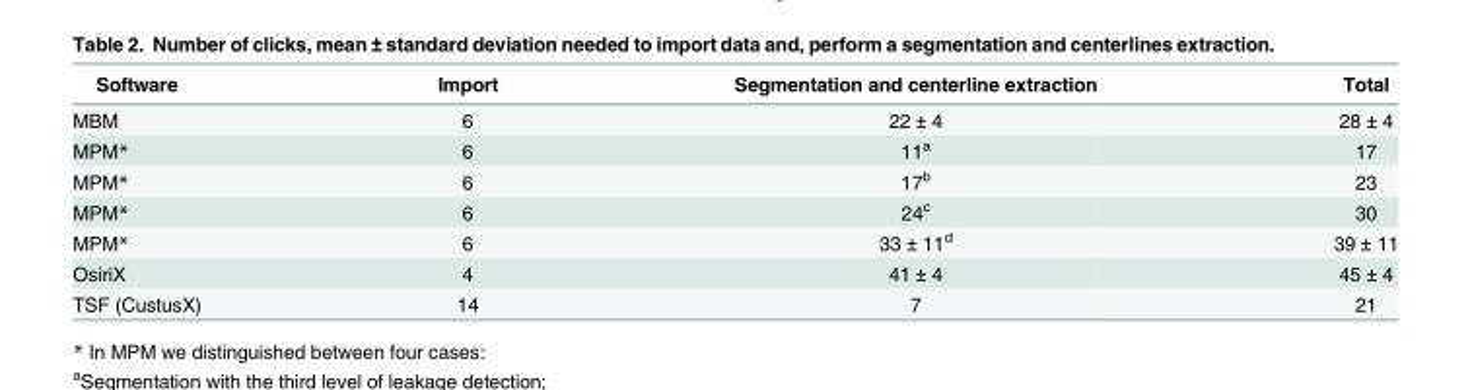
<table><thead><tr><td>Software</td><td>Import</td><td>Segmentation and centerline extraction</td><td>Total</td></tr></thead><tbody><tr><td>MBM</td><td>6</td><td>22 ± 4</td><td>28 ± 4</td></tr><tr><td>MPM*</td><td>6</td><td>11<sup>a</sup></td><td>17</td></tr><tr><td>MPM*</td><td>6</td><td>17<sup>b</sup></td><td>23</td></tr><tr><td>MPM*</td><td>6</td><td>24<sup>c</sup></td><td>30</td></tr><tr><td>MPM*</td><td>6</td><td>33 ± 11<sup>d</sup></td><td>39 ± 11</td></tr><tr><td>OsiriX</td><td>4</td><td>41 ± 4</td><td>45 ± 4</td></tr><tr><td>TSF (CustusX)</td><td>14</td><td>7</td><td>21</td></tr></tbody></table>